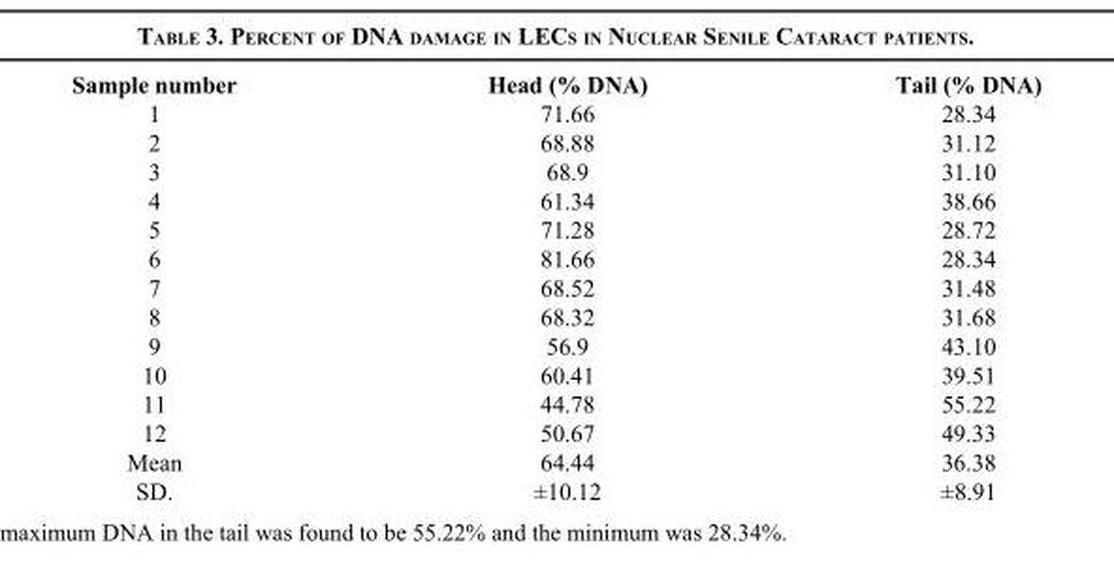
<table><thead><tr><td>Sample number</td><td>Head (% DNA)</td><td>Tail (% DNA)</td></tr></thead><tbody><tr><td>1</td><td>71.66</td><td>28.34</td></tr><tr><td>2</td><td>68.88</td><td>31.12</td></tr><tr><td>3</td><td>68.9</td><td>31.10</td></tr><tr><td>4</td><td>61.34</td><td>38.66</td></tr><tr><td>5</td><td>71.28</td><td>28.72</td></tr><tr><td>6</td><td>81.66</td><td>28.34</td></tr><tr><td>7</td><td>68.52</td><td>31.48</td></tr><tr><td>8</td><td>68.32</td><td>31.68</td></tr><tr><td>9</td><td>56.9</td><td>43.10</td></tr><tr><td>10</td><td>60.41</td><td>39.51</td></tr><tr><td>11</td><td>44.78</td><td>55.22</td></tr><tr><td>12</td><td>50.67</td><td>49.33</td></tr><tr><td>Mean</td><td>64.44</td><td>36.38</td></tr><tr><td>SD.</td><td>±10.12</td><td>±8.91</td></tr></tbody></table>